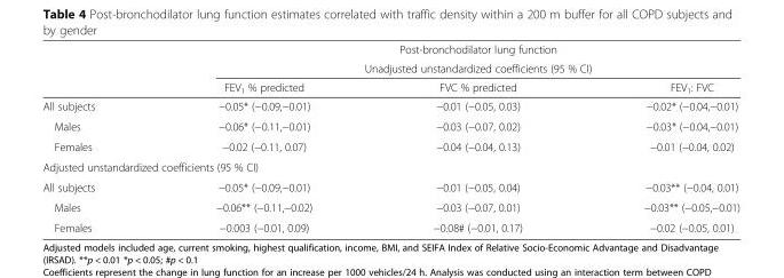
<table><thead><tr><td rowspan="3"></td><td rowspan="2" colspan="3">Post-bronchodilator lung function Unadjusted unstandardized coefficients (95 % CI)</td></tr><tr></tr><tr><td>FEV<sub>1</sub> % predicted</td><td>FVC % predicted</td><td>FEV<sub>1</sub>: FVC</td></tr></thead><tbody><tr><td>All subjects</td><td>−0.05* (−0.09,−0.01)</td><td>−0.01 (−0.05, 0.03)</td><td>−0.02* (−0.04,−0.01)</td></tr><tr><td>Males</td><td>−0.06* (−0.11,−0.01)</td><td>−0.03 (−0.07, 0.02)</td><td>−0.03* (−0.04,−0.01)</td></tr><tr><td>Females</td><td>−0.02 (−0.11, 0.07)</td><td>−0.04 (−0.04, 0.13)</td><td>−0.01 (−0.04, 0.02)</td></tr><tr><td colspan="4">Adjusted unstandardized coefficients (95 % CI)</td></tr><tr><td>All subjects</td><td>−0.05* (−0.09,−0.01)</td><td>−0.01 (−0.05, 0.04)</td><td>−0.03** (−0.04, 0.01)</td></tr><tr><td>Males</td><td>−0.06** (−0.11,−0.02)</td><td>−0.03 (−0.07, 0.01)</td><td>−0.03** (−0.05,−0.01)</td></tr><tr><td>Females</td><td>−0.003 (−0.01, 0.09)</td><td>−0.08# (−0.01, 0.17)</td><td>−0.02 (−0.05, 0.01)</td></tr></tbody></table>